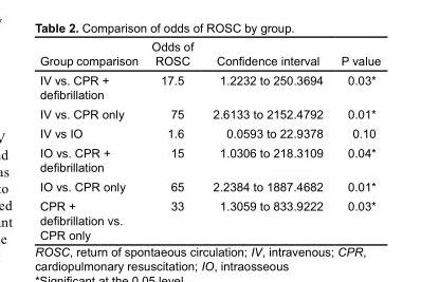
<table><thead><tr><td>Group comparison</td><td>Odds of ROSC</td><td>Confidence interval</td><td>P value</td></tr></thead><tbody><tr><td>IV vs. CPR + defibrillation</td><td>17.5</td><td>1.2232 to 250.3694</td><td>0.03*</td></tr><tr><td>IV vs. CPR only</td><td>75</td><td>2.6133 to 2152.4792</td><td>0.01*</td></tr><tr><td>IV vs IO</td><td>1.6</td><td>0.0593 to 22.9378</td><td>0.10</td></tr><tr><td>IO vs. CPR + defibrillation</td><td>15</td><td>1.0306 to 218.3109</td><td>0.04*</td></tr><tr><td>IO vs. CPR only</td><td>65</td><td>2.2384 to 1887.4682</td><td>0.01*</td></tr><tr><td>CPR + defibrillation vs. CPR only</td><td>33</td><td>1.3059 to 833.9222</td><td>0.03*</td></tr></tbody></table>